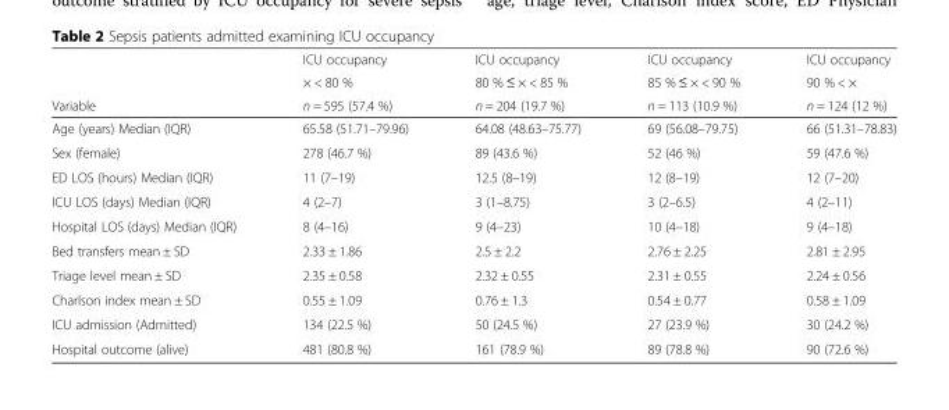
<table><thead><tr><td rowspan="3">Variable</td><td rowspan="3">ICU occupancy × &lt; 80 % n = 595 (57.4 %)</td><td rowspan="3">ICU occupancy 80 % ≤ × &lt; 85 % n = 204 (19.7 %)</td><td rowspan="3">ICU occupancy 85 % ≤ × &lt; 90 % n = 113 (10.9 %)</td><td rowspan="3">ICU occupancy 90 % &lt; × n = 124 (12 %)</td></tr><tr></tr><tr></tr></thead><tbody><tr><td>Age (years) Median (IQR)</td><td>65.58 (51.71–79.96)</td><td>64.08 (48.63–75.77)</td><td>69 (56.08–79.75)</td><td>66 (51.31–78.83)</td></tr><tr><td>Sex (female)</td><td>278 (46.7 %)</td><td>89 (43.6 %)</td><td>52 (46 %)</td><td>59 (47.6 %)</td></tr><tr><td>ED LOS (hours) Median (IQR)</td><td>11 (7–19)</td><td>12.5 (8–19)</td><td>12 (8–19)</td><td>12 (7–20)</td></tr><tr><td>ICU LOS (days) Median (IQR)</td><td>4 (2–7)</td><td>3 (1–8.75)</td><td>3 (2–6.5)</td><td>4 (2–11)</td></tr><tr><td>Hospital LOS (days) Median (IQR)</td><td>8 (4–16)</td><td>9 (4–23)</td><td>10 (4–18)</td><td>9 (4–18)</td></tr><tr><td>Bed transfers mean ± SD</td><td>2.33 ± 1.86</td><td>2.5 ± 2.2</td><td>2.76 ± 2.25</td><td>2.81 ± 2.95</td></tr><tr><td>Triage level mean ± SD</td><td>2.35 ± 0.58</td><td>2.32 ± 0.55</td><td>2.31 ± 0.55</td><td>2.24 ± 0.56</td></tr><tr><td>Charlson index mean ± SD</td><td>0.55 ± 1.09</td><td>0.76 ± 1.3</td><td>0.54 ± 0.77</td><td>0.58 ± 1.09</td></tr><tr><td>ICU admission (Admitted)</td><td>134 (22.5 %)</td><td>50 (24.5 %)</td><td>27 (23.9 %)</td><td>30 (24.2 %)</td></tr><tr><td>Hospital outcome (alive)</td><td>481 (80.8 %)</td><td>161 (78.9 %)</td><td>89 (78.8 %)</td><td>90 (72.6 %)</td></tr></tbody></table>